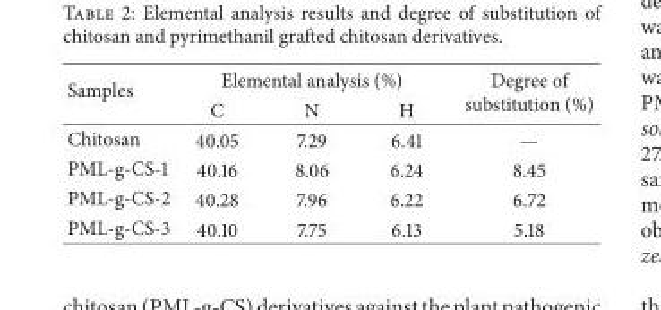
<table><thead><tr><td rowspan="2">Samples</td><td colspan="3">Elemental analysis (%)</td><td rowspan="2">Degree of substitution (%)</td></tr><tr><td>C</td><td>N</td><td>H</td></tr></thead><tbody><tr><td>Chitosan</td><td>40.05</td><td>7.29</td><td>6.41</td><td>—</td></tr><tr><td>PML-g-CS-1</td><td>40.16</td><td>8.06</td><td>6.24</td><td>8.45</td></tr><tr><td>PML-g-CS-2</td><td>40.28</td><td>7.96</td><td>6.22</td><td>6.72</td></tr><tr><td>PML-g-CS-3</td><td>40.10</td><td>7.75</td><td>6.13</td><td>5.18</td></tr></tbody></table>